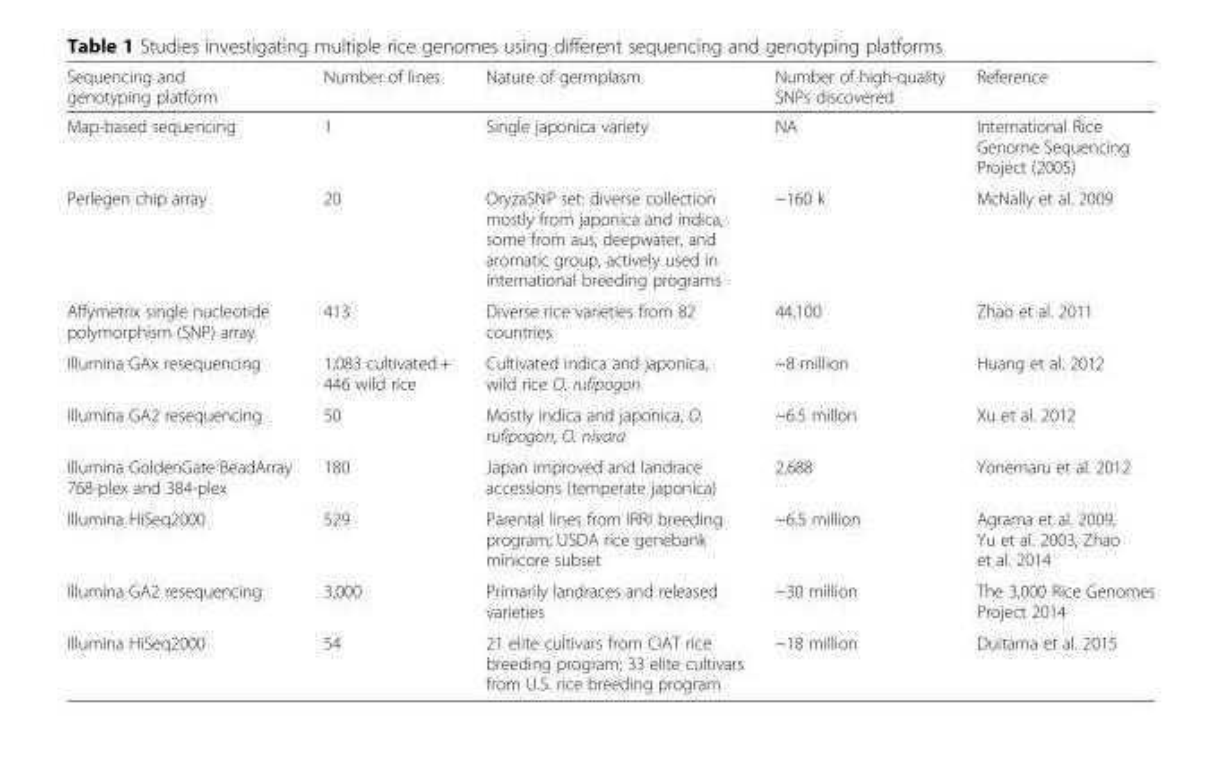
<table><thead><tr><td>Sequencing and genotyping platform</td><td>Number of lines</td><td>Nature of germplasm</td><td>Number of high-quality SNPs discovered</td><td>Reference</td></tr></thead><tbody><tr><td>Map-based sequencing</td><td>1</td><td>Single japonica variety</td><td>NA</td><td>International Rice Genome Sequencing Project (2005)</td></tr><tr><td>Perlegen chip array</td><td>20</td><td>OryzaSNP set: diverse collection mostly from japonica and indica, some from aus, deepwater, and aromatic group, actively used in international breeding programs</td><td>~160 k</td><td>McNally et al. 2009</td></tr><tr><td>Affymetrix single nucleotide polymorphism (SNP) array</td><td>413</td><td>Diverse rice varieties from 82 countries</td><td>44,100</td><td>Zhao et al. 2011</td></tr><tr><td>Illumina GAx resequencing</td><td>1,083 cultivated + 446 wild rice</td><td>Cultivated indica and japonica, wild rice O. rufipogon</td><td>~8 million</td><td>Huang et al. 2012</td></tr><tr><td>Illumina GA2 resequencing</td><td>50</td><td>Mostly indica and japonica, O. rufipogon, O. nivara</td><td>~6.5 millon</td><td>Xu et al. 2012</td></tr><tr><td>Illumina GoldenGate BeadArray 768-plex and 384-plex</td><td>180</td><td>Japan improved and landrace accessions (temperate japonica)</td><td>2,688</td><td>Yonemaru et al. 2012</td></tr><tr><td>Illumina HiSeq2000</td><td>529</td><td>Parental lines from IRRI breeding program; USDA rice genebank minicore subset</td><td>~6.5 million</td><td>Agrama et al. 2009, Yu et al. 2003, Zhao et al. 2014</td></tr><tr><td>Illumina GA2 resequencing</td><td>3,000</td><td>Primarily landraces and released varieties</td><td>~30 million</td><td>The 3,000 Rice Genomes Project 2014</td></tr><tr><td>Illumina HiSeq2000</td><td>54</td><td>21 elite cultivars from CIAT rice breeding program; 33 elite cultivars from U.S. rice breeding program</td><td>~18 million</td><td>Duitama et al. 2015</td></tr></tbody></table>